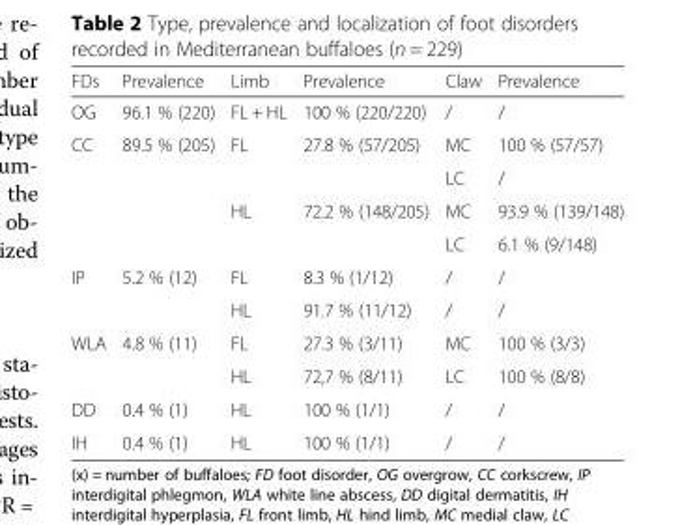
<table><thead><tr><td>FDs</td><td>Prevalence</td><td>Limb</td><td>Prevalence</td><td>Claw</td><td>Prevalence</td></tr></thead><tbody><tr><td>OG</td><td>96.1 % (220)</td><td>FL + HL</td><td>100 % (220/220)</td><td>/</td><td>/</td></tr><tr><td rowspan="4">CC</td><td rowspan="4">89.5 % (205)</td><td rowspan="2">FL</td><td rowspan="2">27.8 % (57/205)</td><td>MC</td><td>100 % (57/57)</td></tr><tr><td>LC</td><td>/</td></tr><tr><td rowspan="2">HL</td><td rowspan="2">72.2 % (148/205)</td><td>MC</td><td>93.9 % (139/148)</td></tr><tr><td>LC</td><td>6.1 % (9/148)</td></tr><tr><td rowspan="2">IP</td><td rowspan="2">5.2 % (12)</td><td>FL</td><td>8.3 % (1/12)</td><td>/</td><td>/</td></tr><tr><td>HL</td><td>91.7 % (11/12)</td><td>/</td><td>/</td></tr><tr><td rowspan="2">WLA</td><td rowspan="2">4.8 % (11)</td><td>FL</td><td>27.3 % (3/11)</td><td>MC</td><td>100 % (3/3)</td></tr><tr><td>HL</td><td>72,7 % (8/11)</td><td>LC</td><td>100 % (8/8)</td></tr><tr><td>DD</td><td>0.4 % (1)</td><td>HL</td><td>100 % (1/1)</td><td>/</td><td>/</td></tr><tr><td>IH</td><td>0.4 % (1)</td><td>HL</td><td>100 % (1/1)</td><td>/</td><td>/</td></tr></tbody></table>